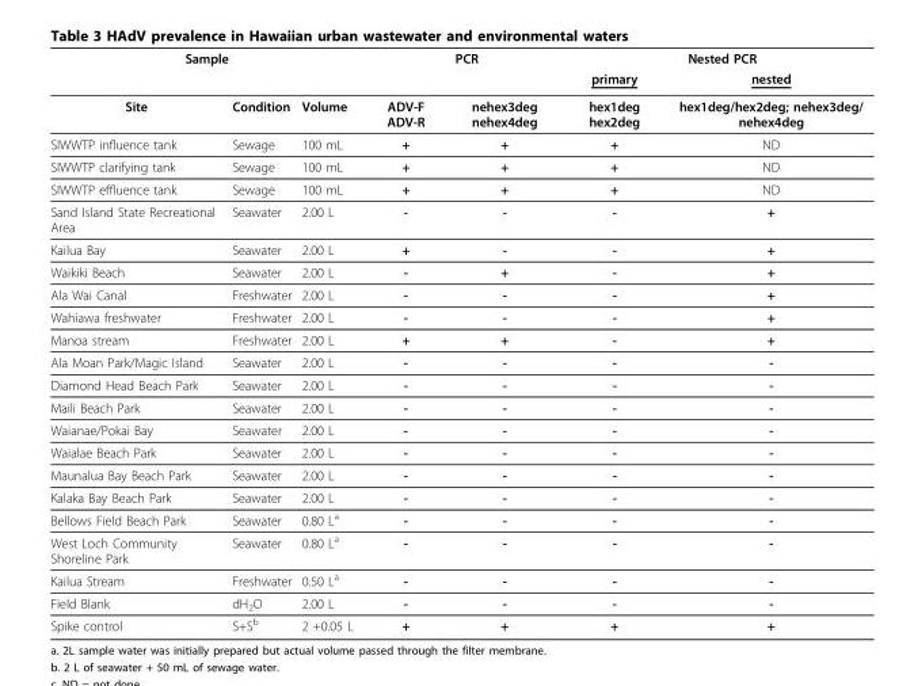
<table><thead><tr><td colspan="3">Sample</td><td colspan="2">PCR</td><td colspan="2">Nested PCR</td></tr><tr><td></td><td></td><td></td><td></td><td></td><td>primary</td><td>nested</td></tr></thead><tbody><tr><td>Site</td><td>Condition</td><td>Volume</td><td>ADV-F ADV-R</td><td>nehex3deg nehex4deg</td><td>hex1deg hex2deg</td><td>hex1deg/hex2deg; nehex3deg/ nehex4deg</td></tr><tr><td>SIWWTP influence tank</td><td>Sewage</td><td>100 mL</td><td>+</td><td>+</td><td>+</td><td>ND</td></tr><tr><td>SIWWTP clarifying tank</td><td>Sewage</td><td>100 mL</td><td>+</td><td>+</td><td>+</td><td>ND</td></tr><tr><td>SIWWTP effluence tank</td><td>Sewage</td><td>100 mL</td><td>+</td><td>+</td><td>+</td><td>ND</td></tr><tr><td>Sand Island State Recreational Area</td><td>Seawater</td><td>2.00 L</td><td>-</td><td>-</td><td>-</td><td>+</td></tr><tr><td>Kailua Bay</td><td>Seawater</td><td>2.00 L</td><td>+</td><td>-</td><td>-</td><td>+</td></tr><tr><td>Waikiki Beach</td><td>Seawater</td><td>2.00 L</td><td>-</td><td>+</td><td>-</td><td>+</td></tr><tr><td>Ala Wai Canal</td><td>Freshwater</td><td>2.00 L</td><td>-</td><td>-</td><td>-</td><td>+</td></tr><tr><td>Wahiawa freshwater</td><td>Freshwater</td><td>2.00 L</td><td>-</td><td>-</td><td>-</td><td>+</td></tr><tr><td>Manoa stream</td><td>Freshwater</td><td>2.00 L</td><td>+</td><td>+</td><td>-</td><td>+</td></tr><tr><td>Ala Moan Park/Magic Island</td><td>Seawater</td><td>2.00 L</td><td>-</td><td>-</td><td>-</td><td>-</td></tr><tr><td>Diamond Head Beach Park</td><td>Seawater</td><td>2.00 L</td><td>-</td><td>-</td><td>-</td><td>-</td></tr><tr><td>Maili Beach Park</td><td>Seawater</td><td>2.00 L</td><td>-</td><td>-</td><td>-</td><td>-</td></tr><tr><td>Waianae/Pokai Bay</td><td>Seawater</td><td>2.00 L</td><td>-</td><td>-</td><td>-</td><td>-</td></tr><tr><td>Waialae Beach Park</td><td>Seawater</td><td>2.00 L</td><td>-</td><td>-</td><td>-</td><td>-</td></tr><tr><td>Maunalua Bay Beach Park</td><td>Seawater</td><td>2.00 L</td><td>-</td><td>-</td><td>-</td><td>-</td></tr><tr><td>Kalaka Bay Beach Park</td><td>Seawater</td><td>2.00 L</td><td>-</td><td>-</td><td>-</td><td>-</td></tr><tr><td>Bellows Field Beach Park</td><td>Seawater</td><td>0.80 L<sup>a</sup></td><td>-</td><td>-</td><td>-</td><td>-</td></tr><tr><td>West Loch Community Shoreline Park</td><td>Seawater</td><td>0.80 L<sup>a</sup></td><td>-</td><td>-</td><td>-</td><td>-</td></tr><tr><td>Kailua Stream</td><td>Freshwater</td><td>0.50 L<sup>a</sup></td><td>-</td><td>-</td><td>-</td><td>-</td></tr><tr><td>Field Blank</td><td>dH<sub>2</sub>O</td><td>2.00 L</td><td>-</td><td>-</td><td>-</td><td>-</td></tr><tr><td>Spike control</td><td>S+S<sup>b</sup></td><td>2 +0.05 L</td><td>+</td><td>+</td><td>+</td><td>+</td></tr></tbody></table>